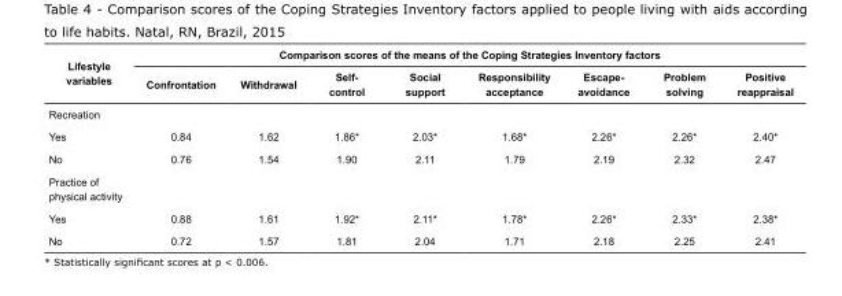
<table><tbody><tr><td rowspan="2">Lifestyle variables</td><td colspan="8">Comparison scores of the means of the Coping Strategies Inventory factors</td></tr><tr><td>Confrontation</td><td>Withdrawal</td><td>Self- control</td><td>Social support</td><td>Responsibility acceptance</td><td>Escape- avoidance</td><td>Problem solving</td><td>Positive reappraisal</td></tr><tr><td colspan="9">Recreation</td></tr><tr><td>Yes</td><td>0.84</td><td>1.62</td><td>1.86*</td><td>2.03*</td><td>1.68*</td><td>2.26*</td><td>2.26*</td><td>2.40*</td></tr><tr><td>No</td><td>0.76</td><td>1.54</td><td>1.90</td><td>2.11</td><td>1.79</td><td>2.19</td><td>2.32</td><td>2.47</td></tr><tr><td colspan="9">Practice of physical activity</td></tr><tr><td>Yes</td><td>0.88</td><td>1.61</td><td>1.92*</td><td>2.11*</td><td>1.78*</td><td>2.26*</td><td>2.33*</td><td>2.38*</td></tr><tr><td>No</td><td>0.72</td><td>1.57</td><td>1.81</td><td>2.04</td><td>1.71</td><td>2.18</td><td>2.25</td><td>2.41</td></tr></tbody></table>